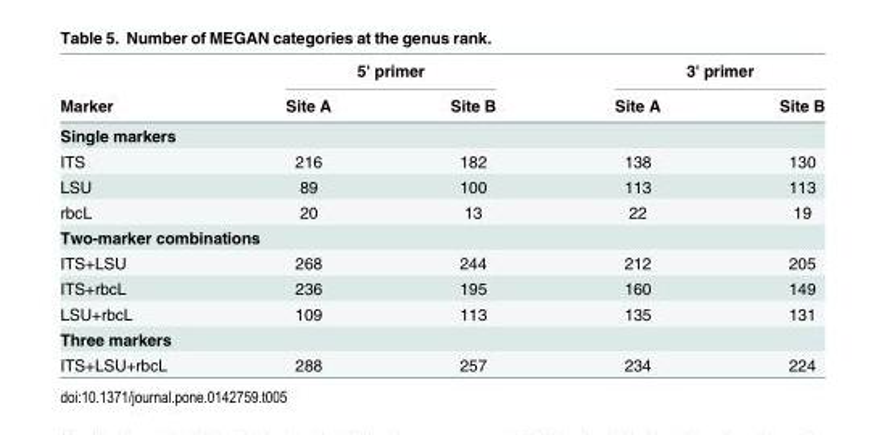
<table><thead><tr><td rowspan="2">Marker</td><td colspan="2">5&#x27; primer</td><td colspan="2">3&#x27; primer</td></tr><tr><td>Site A</td><td>Site B</td><td>Site A</td><td>Site B</td></tr></thead><tbody><tr><td colspan="5">Single markers</td></tr><tr><td>ITS</td><td>216</td><td>182</td><td>138</td><td>130</td></tr><tr><td>LSU</td><td>89</td><td>100</td><td>113</td><td>113</td></tr><tr><td>rbcL</td><td>20</td><td>13</td><td>22</td><td>19</td></tr><tr><td colspan="5">Two-marker combinations</td></tr><tr><td>ITS+LSU</td><td>268</td><td>244</td><td>212</td><td>205</td></tr><tr><td>ITS+rbcL</td><td>236</td><td>195</td><td>160</td><td>149</td></tr><tr><td>LSU+rbcL</td><td>109</td><td>113</td><td>135</td><td>131</td></tr><tr><td colspan="5">Three markers</td></tr><tr><td>ITS+LSU+rbcL</td><td>288</td><td>257</td><td>234</td><td>224</td></tr></tbody></table>